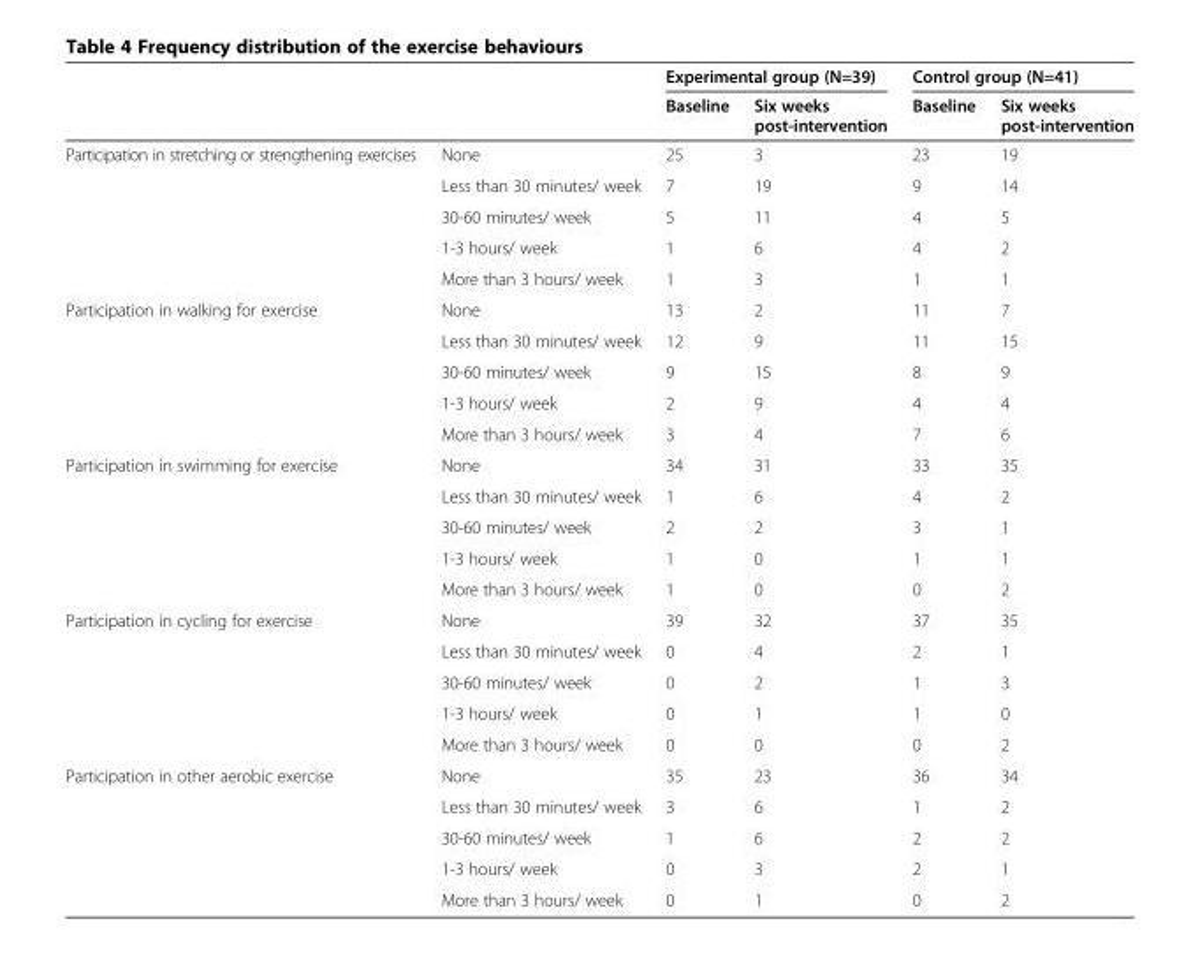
<table><thead><tr><td rowspan="2"></td><td rowspan="2"></td><td colspan="2">Experimental group (N=39)</td><td colspan="2">Control group (N=41)</td></tr><tr><td>Baseline</td><td>Six weeks post-intervention</td><td>Baseline</td><td>Six weeks post-intervention</td></tr></thead><tbody><tr><td rowspan="5">Participation in stretching or strengthening exercises</td><td>None</td><td>25</td><td>3</td><td>23</td><td>19</td></tr><tr><td>Less than 30 minutes/ week</td><td>7</td><td>19</td><td>9</td><td>14</td></tr><tr><td>30-60 minutes/ week</td><td>5</td><td>11</td><td>4</td><td>5</td></tr><tr><td>1-3 hours/ week</td><td>1</td><td>6</td><td>4</td><td>2</td></tr><tr><td>More than 3 hours/ week</td><td>1</td><td>3</td><td>1</td><td>1</td></tr><tr><td rowspan="5">Participation in walking for exercise</td><td>None</td><td>13</td><td>2</td><td>11</td><td>7</td></tr><tr><td>Less than 30 minutes/ week</td><td>12</td><td>9</td><td>11</td><td>15</td></tr><tr><td>30-60 minutes/ week</td><td>9</td><td>15</td><td>8</td><td>9</td></tr><tr><td>1-3 hours/ week</td><td>2</td><td>9</td><td>4</td><td>4</td></tr><tr><td>More than 3 hours/ week</td><td>3</td><td>4</td><td>7</td><td>6</td></tr><tr><td rowspan="5">Participation in swimming for exercise</td><td>None</td><td>34</td><td>31</td><td>33</td><td>35</td></tr><tr><td>Less than 30 minutes/ week</td><td>1</td><td>6</td><td>4</td><td>2</td></tr><tr><td>30-60 minutes/ week</td><td>2</td><td>2</td><td>3</td><td>1</td></tr><tr><td>1-3 hours/ week</td><td>1</td><td>0</td><td>1</td><td>1</td></tr><tr><td>More than 3 hours/ week</td><td>1</td><td>0</td><td>0</td><td>2</td></tr><tr><td rowspan="5">Participation in cycling for exercise</td><td>None</td><td>39</td><td>32</td><td>37</td><td>35</td></tr><tr><td>Less than 30 minutes/ week</td><td>0</td><td>4</td><td>2</td><td>1</td></tr><tr><td>30-60 minutes/ week</td><td>0</td><td>2</td><td>1</td><td>3</td></tr><tr><td>1-3 hours/ week</td><td>0</td><td>1</td><td>1</td><td>0</td></tr><tr><td>More than 3 hours/ week</td><td>0</td><td>0</td><td>0</td><td>2</td></tr><tr><td rowspan="5">Participation in other aerobic exercise</td><td>None</td><td>35</td><td>23</td><td>36</td><td>34</td></tr><tr><td>Less than 30 minutes/ week</td><td>3</td><td>6</td><td>1</td><td>2</td></tr><tr><td>30-60 minutes/ week</td><td>1</td><td>6</td><td>2</td><td>2</td></tr><tr><td>1-3 hours/ week</td><td>0</td><td>3</td><td>2</td><td>1</td></tr><tr><td>More than 3 hours/ week</td><td>0</td><td>1</td><td>0</td><td>2</td></tr></tbody></table>